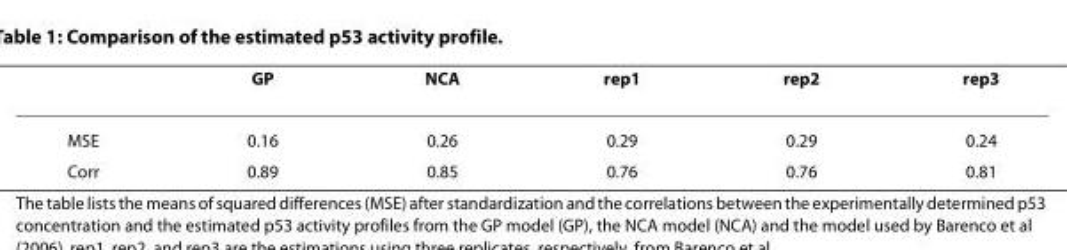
<table><thead><tr><td></td><td>GP</td><td>NCA</td><td>rep1</td><td>rep2</td><td>rep3</td></tr></thead><tbody><tr><td>MSE</td><td>0.16</td><td>0.26</td><td>0.29</td><td>0.29</td><td>0.24</td></tr><tr><td>Corr</td><td>0.89</td><td>0.85</td><td>0.76</td><td>0.76</td><td>0.81</td></tr></tbody></table>